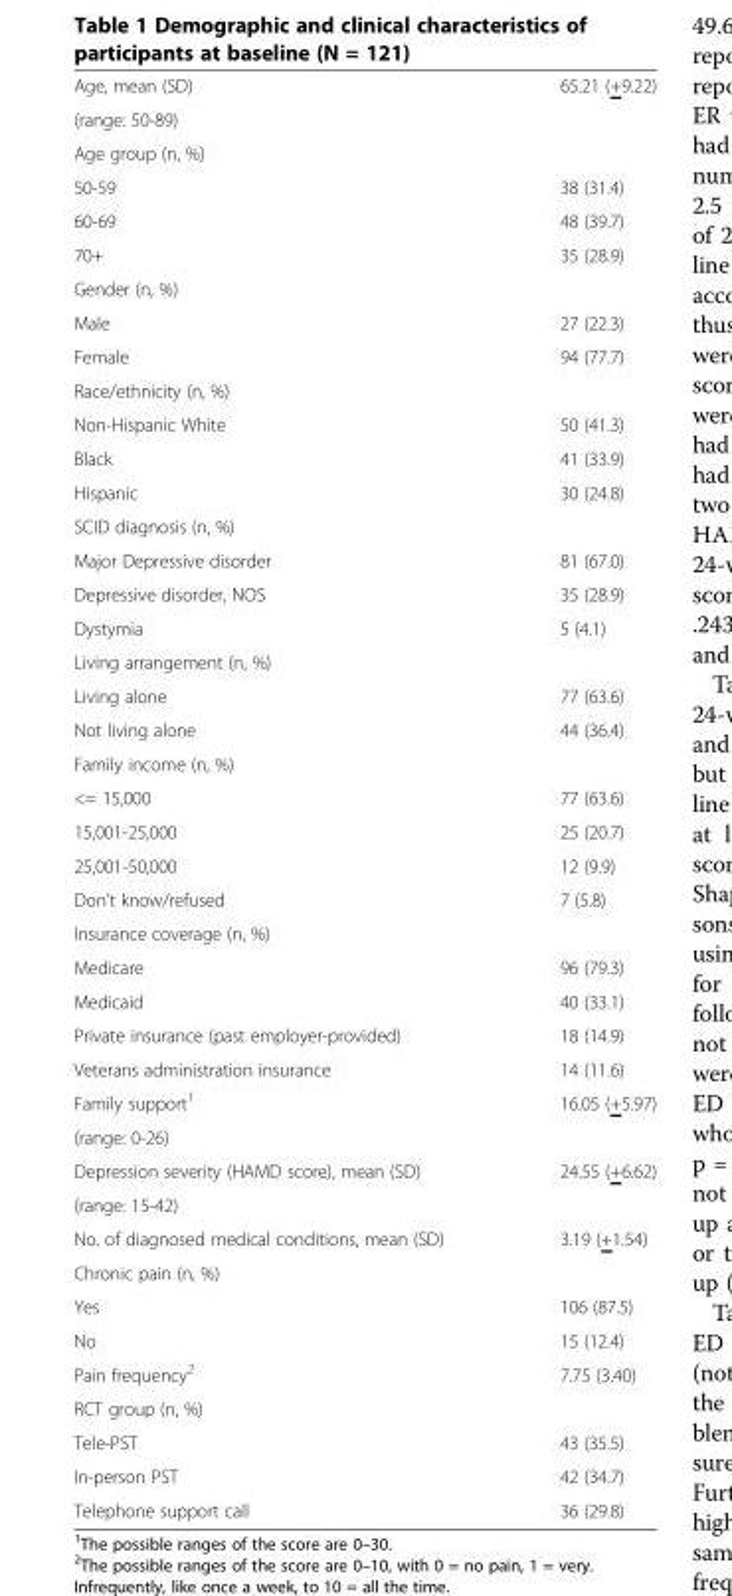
<table><tbody><tr><td>Age, mean (SD)</td><td>65.21 (+9.22)</td></tr><tr><td colspan="2">(range: 50-89)</td></tr><tr><td colspan="2">Age group (n, %)</td></tr><tr><td>50-59</td><td>38 (31.4)</td></tr><tr><td>60-69</td><td>48 (39.7)</td></tr><tr><td>70+</td><td>35 (28.9)</td></tr><tr><td colspan="2">Gender (n, %)</td></tr><tr><td>Male</td><td>27 (22.3)</td></tr><tr><td>Female</td><td>94 (77.7)</td></tr><tr><td colspan="2">Race/ethnicity (n, %)</td></tr><tr><td>Non-Hispanic White</td><td>50 (41.3)</td></tr><tr><td>Black</td><td>41 (33.9)</td></tr><tr><td>Hispanic</td><td>30 (24.8)</td></tr><tr><td colspan="2">SCID diagnosis (n, %)</td></tr><tr><td>Major Depressive disorder</td><td>81 (67.0)</td></tr><tr><td>Depressive disorder, NOS</td><td>35 (28.9)</td></tr><tr><td>Dystymia</td><td>5 (4.1)</td></tr><tr><td colspan="2">Living arrangement (n, %)</td></tr><tr><td>Living alone</td><td>77 (63.6)</td></tr><tr><td>Not living alone</td><td>44 (36.4)</td></tr><tr><td colspan="2">Family income (n, %)</td></tr><tr><td>&lt;= 15,000</td><td>77 (63.6)</td></tr><tr><td>15,001-25,000</td><td>25 (20.7)</td></tr><tr><td>25,001-50,000</td><td>12 (9.9)</td></tr><tr><td>Don’t know/refused</td><td>7 (5.8)</td></tr><tr><td colspan="2">Insurance coverage (n, %)</td></tr><tr><td>Medicare</td><td>96 (79.3)</td></tr><tr><td>Medicaid</td><td>40 (33.1)</td></tr><tr><td>Private insurance (past employer-provided)</td><td>18 (14.9)</td></tr><tr><td>Veterans administration insurance</td><td>14 (11.6)</td></tr><tr><td>Family support<sup>1</sup></td><td>16.05 (+5.97)</td></tr><tr><td colspan="2">(range: 0-26)</td></tr><tr><td>Depression severity (HAMD score), mean (SD)</td><td>24.55 (+6.62)</td></tr><tr><td colspan="2">(range: 15-42)</td></tr><tr><td>No. of diagnosed medical conditions, mean (SD)</td><td>3.19 (+1.54)</td></tr><tr><td colspan="2">Chronic pain (n, %)</td></tr><tr><td>Yes</td><td>106 (87.5)</td></tr><tr><td>No</td><td>15 (12.4)</td></tr><tr><td>Pain frequency<sup>2</sup></td><td>7.75 (3.40)</td></tr><tr><td colspan="2">RCT group (n, %)</td></tr><tr><td>Tele-PST</td><td>43 (35.5)</td></tr><tr><td>In-person PST</td><td>42 (34.7)</td></tr><tr><td>Telephone support call</td><td>36 (29.8)</td></tr></tbody></table>